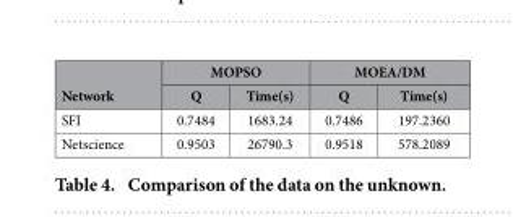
<table><thead><tr><td rowspan="2">Network</td><td colspan="2">MOPSO</td><td colspan="2">MOEA/DM</td></tr><tr><td>Q</td><td>Time(s)</td><td>Q</td><td>Time(s)</td></tr></thead><tbody><tr><td>SFI</td><td>0.7484</td><td>1683.24</td><td>0.7486</td><td>197.2360</td></tr><tr><td>Netscience</td><td>0.9503</td><td>26790.3</td><td>0.9518</td><td>578.2089</td></tr></tbody></table>